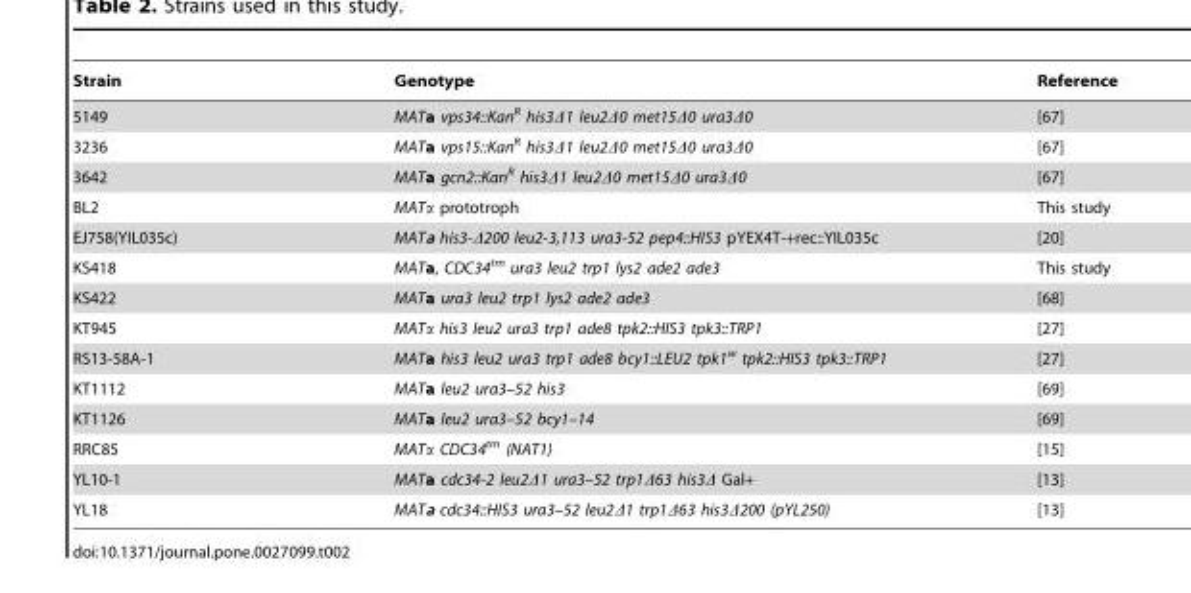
<table><thead><tr><td>Strain</td><td>Genotype</td><td>Reference</td></tr></thead><tbody><tr><td>5149</td><td>MATa vps34::Kan<sup>R</sup> his3Δ1 leu2Δ0 met15Δ0 ura3Δ0</td><td>[67]</td></tr><tr><td>3236</td><td>MATa vps15::Kan<sup>R</sup> his3Δ1 leu2Δ0 met15Δ0 ura3Δ0</td><td>[67]</td></tr><tr><td>3642</td><td>MATa gcn2::Kan<sup>R</sup> his3Δ1 leu2Δ0 met15Δ0 ura3Δ0</td><td>[67]</td></tr><tr><td>BL2</td><td>MATα prototroph</td><td>This study</td></tr><tr><td>EJ758(YIL035c)</td><td>MATa his3-Δ200 leu2-3,113 ura3-52 pep4::HIS3 pYEX4T-+rec::YIL035c</td><td>[20]</td></tr><tr><td>KS418</td><td>MATa, CDC34<sup>tm</sup> ura3 leu2 trp1 lys2 ade2 ade3</td><td>This study</td></tr><tr><td>KS422</td><td>MATa ura3 leu2 trp1 lys2 ade2 ade3</td><td>[68]</td></tr><tr><td>KT945</td><td>MATα his3 leu2 ura3 trp1 ade8 tpk2::HIS3 tpk3::TRP1</td><td>[27]</td></tr><tr><td>RS13-58A-1</td><td>MATa his3 leu2 ura3 trp1 ade8 bcy1::LEU2 tpk1<sup>w</sup> tpk2::HIS3 tpk3::TRP1</td><td>[27]</td></tr><tr><td>KT1112</td><td>MATa leu2 ura3–52 his3</td><td>[69]</td></tr><tr><td>KT1126</td><td>MATa leu2 ura3–52 bcy1–14</td><td>[69]</td></tr><tr><td>RRC85</td><td>MATα CDC34<sup>tm</sup> (NAT1)</td><td>[15]</td></tr><tr><td>YL10-1</td><td>MATa cdc34-2 leu2Δ1 ura3–52 trp1Δ63 his3Δ Gal+</td><td>[13]</td></tr><tr><td>YL18</td><td>MATa cdc34::HIS3 ura3–52 leu2Δ1 trp1Δ63 his3Δ200 (pYL250)</td><td>[13]</td></tr></tbody></table>